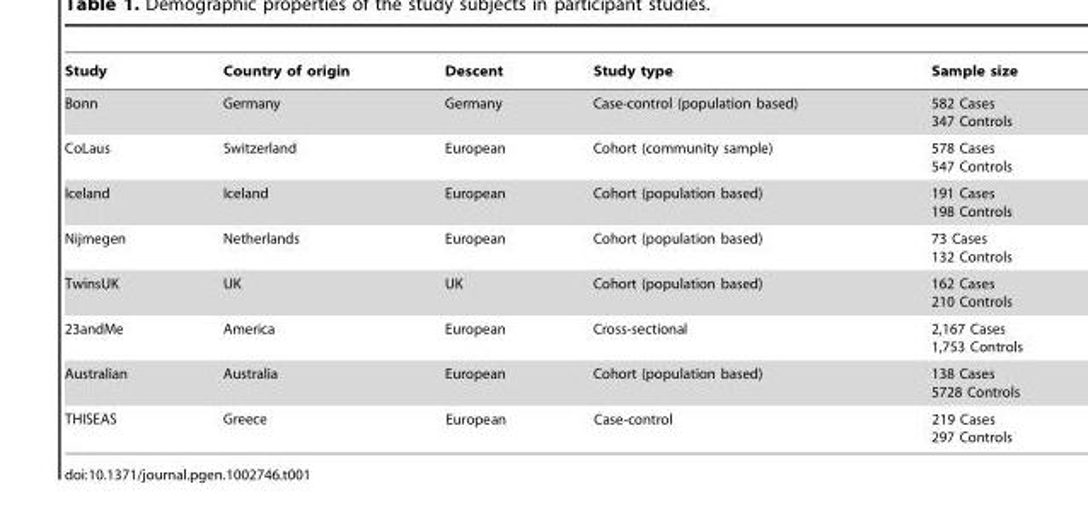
<table><thead><tr><td>Study</td><td>Country of origin</td><td>Descent</td><td>Study type</td><td>Sample size</td></tr></thead><tbody><tr><td>Bonn</td><td>Germany</td><td>Germany</td><td>Case-control (population based)</td><td>582 Cases 347 Controls</td></tr><tr><td>CoLaus</td><td>Switzerland</td><td>European</td><td>Cohort (community sample)</td><td>578 Cases 547 Controls</td></tr><tr><td>Iceland</td><td>Iceland</td><td>European</td><td>Cohort (population based)</td><td>191 Cases 198 Controls</td></tr><tr><td>Nijmegen</td><td>Netherlands</td><td>European</td><td>Cohort (population based)</td><td>73 Cases 132 Controls</td></tr><tr><td>TwinsUK</td><td>UK</td><td>UK</td><td>Cohort (population based)</td><td>162 Cases 210 Controls</td></tr><tr><td>23andMe</td><td>America</td><td>European</td><td>Cross-sectional</td><td>2,167 Cases 1,753 Controls</td></tr><tr><td>Australian</td><td>Australia</td><td>European</td><td>Cohort (population based)</td><td>138 Cases 5728 Controls</td></tr><tr><td>THISEAS</td><td>Gr eece</td><td>European</td><td>Case-control</td><td>297 Controls 219 Cases</td></tr></tbody></table>